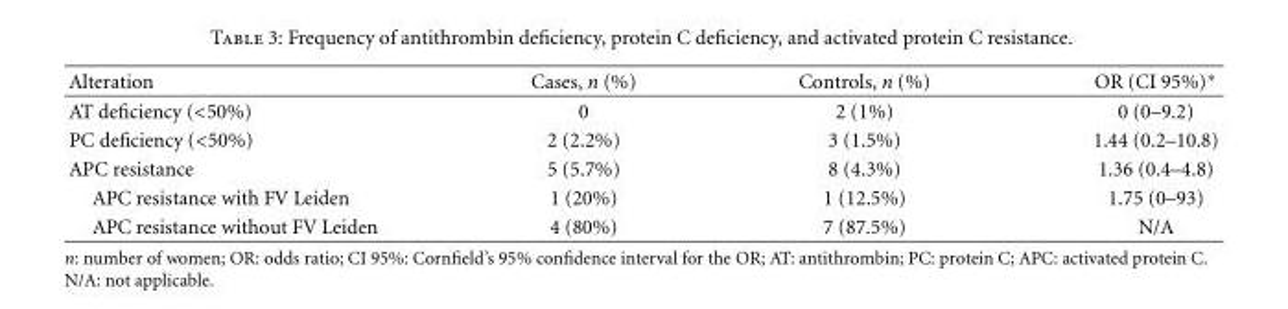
<table><thead><tr><td>Alteration</td><td>Cases, n (%)</td><td>Controls, n (%)</td><td>OR (CI 95%)∗</td></tr></thead><tbody><tr><td>AT deficiency (&lt;50%)</td><td>0</td><td>2 (1%)</td><td>0 (0–9.2)</td></tr><tr><td>PC deficiency (&lt;50%)</td><td>2 (2.2%)</td><td>3 (1.5%)</td><td>1.44 (0.2–10.8)</td></tr><tr><td>APC resistance</td><td>5 (5.7%)</td><td>8 (4.3%)</td><td>1.36 (0.4–4.8)</td></tr><tr><td>APC resistance with FV Leiden</td><td>1 (20%)</td><td>1 (12.5%)</td><td>1.75 (0–93)</td></tr><tr><td>APC resistance without FV Leiden</td><td>4 (80%)</td><td>7 (87.5%)</td><td>N/A</td></tr></tbody></table>